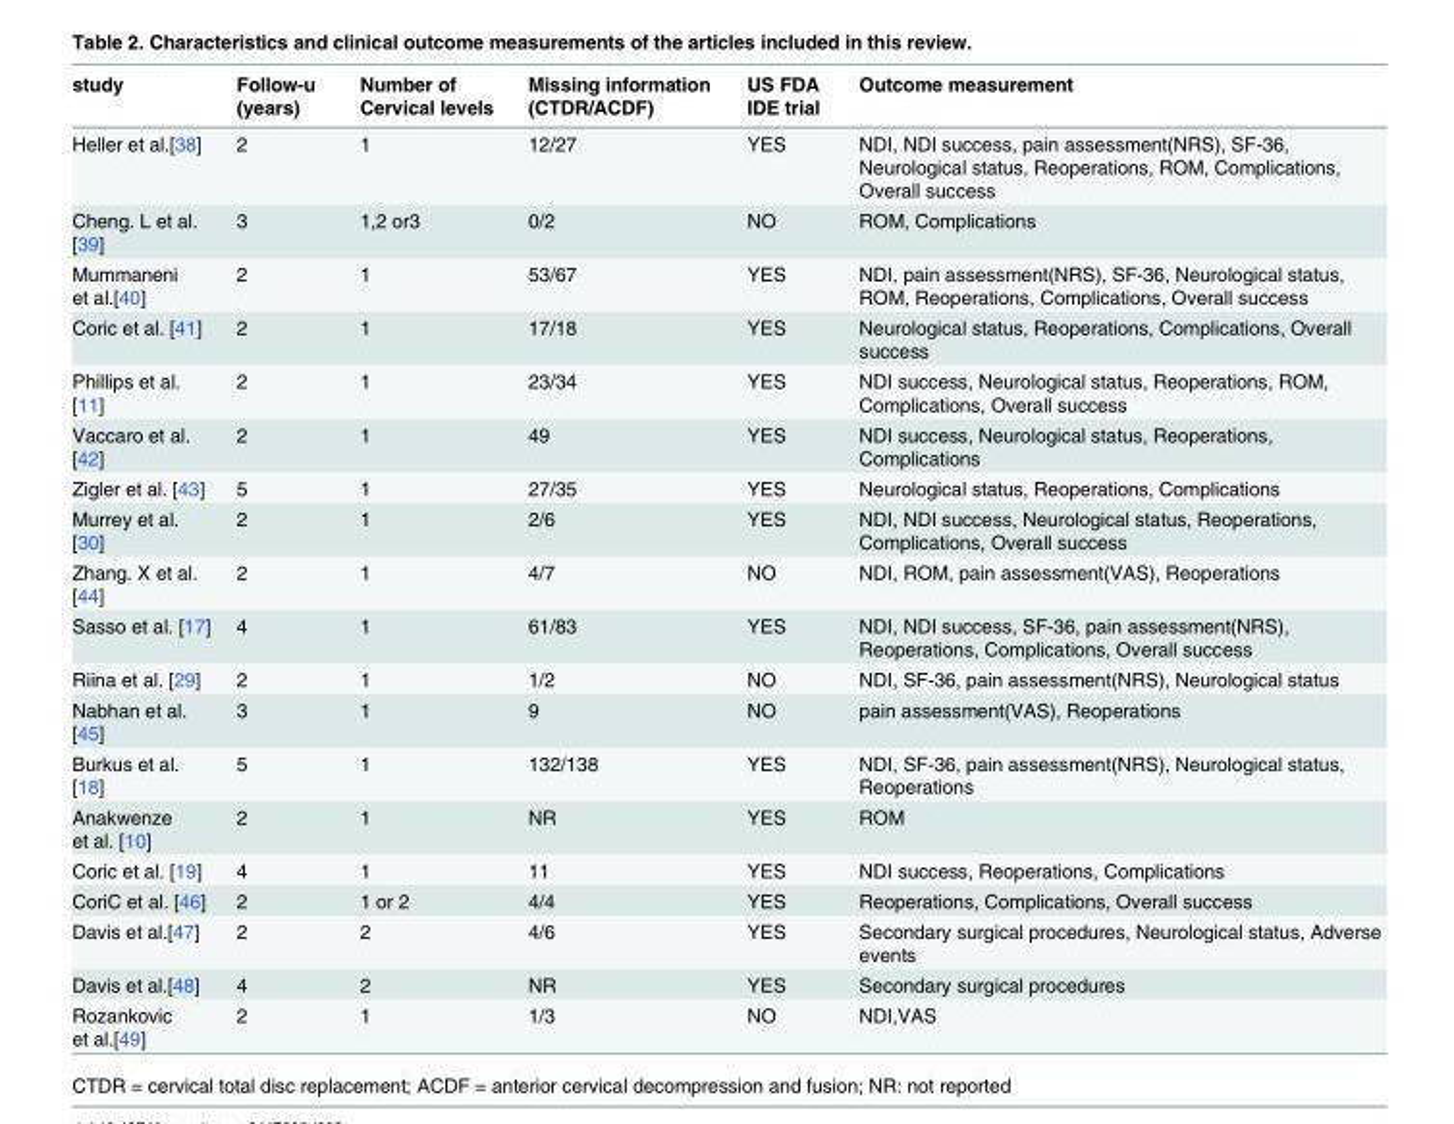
<table><thead><tr><td>study</td><td>Follow-u (years)</td><td>Number of Cervical levels</td><td>Missing information (CTDR/ACDF)</td><td>US FDA IDE trial</td><td>Outcome measurement</td></tr></thead><tbody><tr><td>Heller et al.[38]</td><td>2</td><td>1</td><td>12/27</td><td>YES</td><td>NDI, NDI success, pain assessment(NRS), SF-36, Neurological status, Reoperations, ROM, Complications, Overall success</td></tr><tr><td>Cheng. L et al. [39]</td><td>3</td><td>1,2 or3</td><td>0/2</td><td>NO</td><td>ROM, Complications</td></tr><tr><td>Mummaneni et al.[40]</td><td>2</td><td>1</td><td>53/67</td><td>YES</td><td>NDI, pain assessment(NRS), SF-36, Neurological status, ROM, Reoperations, Complications, Overall success</td></tr><tr><td>Coric et al. [41]</td><td>2</td><td>1</td><td>17/18</td><td>YES</td><td>Neurological status, Reoperations, Complications, Overall success</td></tr><tr><td>Phillips et al. [11]</td><td>2</td><td>1</td><td>23/34</td><td>YES</td><td>NDI success, Neurological status, Reoperations, ROM, Complications, Overall success</td></tr><tr><td>Vaccaro et al. [42]</td><td>2</td><td>1</td><td>49</td><td>YES</td><td>NDI success, Neurological status, Reoperations, Complications</td></tr><tr><td>Zigler et al. [43]</td><td>5</td><td>1</td><td>27/35</td><td>YES</td><td>Neurological status, Reoperations, Complications</td></tr><tr><td>Murrey et al. [30]</td><td>2</td><td>1</td><td>2/6</td><td>YES</td><td>NDI, NDI success, Neurological status, Reoperations, Complications, Overall success</td></tr><tr><td>Zhang. X et al. [44]</td><td>2</td><td>1</td><td>4/7</td><td>NO</td><td>NDI, ROM, pain assessment(VAS), Reoperations</td></tr><tr><td>Sasso et al. [17]</td><td>4</td><td>1</td><td>61/83</td><td>YES</td><td>NDI, NDI success, SF-36, pain assessment(NRS), Reoperations, Complications, Overall success</td></tr><tr><td>Riina et al. [29]</td><td>2</td><td>1</td><td>1/2</td><td>NO</td><td>NDI, SF-36, pain assessment(NRS), Neurological status</td></tr><tr><td>Nabhan et al. [45]</td><td>3</td><td>1</td><td>9</td><td>NO</td><td>pain assessment(VAS), Reoperations</td></tr><tr><td>Burkus et al. [18]</td><td>5</td><td>1</td><td>132/138</td><td>YES</td><td>NDI, SF-36, pain assessment(NRS), Neurological status, Reoperations</td></tr><tr><td>Anakwenze et al. [10]</td><td>2</td><td>1</td><td>NR</td><td>YES</td><td>ROM</td></tr><tr><td>Coric et al. [19]</td><td>4</td><td>1</td><td>11</td><td>YES</td><td>NDI success, Reoperations, Complications</td></tr><tr><td>CoriC et al. [46]</td><td>2</td><td>1 or 2</td><td>4/4</td><td>YES</td><td>Reoperations, Complications, Overall success</td></tr><tr><td>Davis et al.[47]</td><td>2</td><td>2</td><td>4/6</td><td>YES</td><td>Secondary surgical procedures, Neurological status, Adverse events</td></tr><tr><td>Davis et al.[48]</td><td>4</td><td>2</td><td>NR</td><td>YES</td><td>Secondary surgical procedures</td></tr><tr><td>Rozankovic et al.[49]</td><td>2</td><td>1</td><td>1/3</td><td>NO</td><td>NDI,VAS</td></tr></tbody></table>